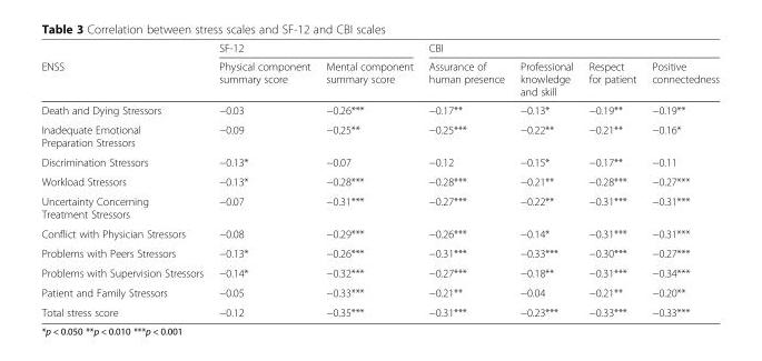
<table><thead><tr><td rowspan="2">ENSS</td><td colspan="2">SF-12</td><td colspan="4">CBI</td></tr><tr><td>Physical component summary score</td><td>Mental component summary score</td><td>Assurance of human presence</td><td>Professional knowledge and skill</td><td>Respect for patient</td><td>Positive connectedness</td></tr></thead><tbody><tr><td>Death and Dying Stressors</td><td>−0.03</td><td>−0.26***</td><td>−0.17**</td><td>−0.13*</td><td>−0.19**</td><td>−0.19**</td></tr><tr><td>Inadequate Emotional Preparation Stressors</td><td>−0.09</td><td>−0.25**</td><td>−0.25***</td><td>−0.22**</td><td>−0.21**</td><td>−0.16*</td></tr><tr><td>Discrimination Stressors</td><td>−0.13*</td><td>−0.07</td><td>−0.12</td><td>−0.15*</td><td>−0.17**</td><td>−0.11</td></tr><tr><td>Workload Stressors</td><td>−0.13*</td><td>−0.28***</td><td>−0.28***</td><td>−0.21**</td><td>−0.28***</td><td>−0.27***</td></tr><tr><td>Uncertainty Concerning Treatment Stressors</td><td>−0.07</td><td>−0.31***</td><td>−0.27***</td><td>−0.22**</td><td>−0.31***</td><td>−0.31***</td></tr><tr><td>Conflict with Physician Stressors</td><td>−0.08</td><td>−0.29***</td><td>−0.26***</td><td>−0.14*</td><td>−0.31***</td><td>−0.31***</td></tr><tr><td>Problems with Peers Stressors</td><td>−0.13*</td><td>−0.26***</td><td>−0.31***</td><td>−0.33***</td><td>−0.30***</td><td>−0.27***</td></tr><tr><td>Problems with Supervision Stressors</td><td>−0.14*</td><td>−0.32***</td><td>−0.27***</td><td>−0.18**</td><td>−0.31***</td><td>−0.34***</td></tr><tr><td>Patient and Family Stressors</td><td>−0.05</td><td>−0.33***</td><td>−0.21**</td><td>−0.04</td><td>−0.21**</td><td>−0.20**</td></tr><tr><td>Total stress score</td><td>−0.12</td><td>−0.35***</td><td>−0.31***</td><td>−0.23***</td><td>−0.33***</td><td>−0.33***</td></tr></tbody></table>